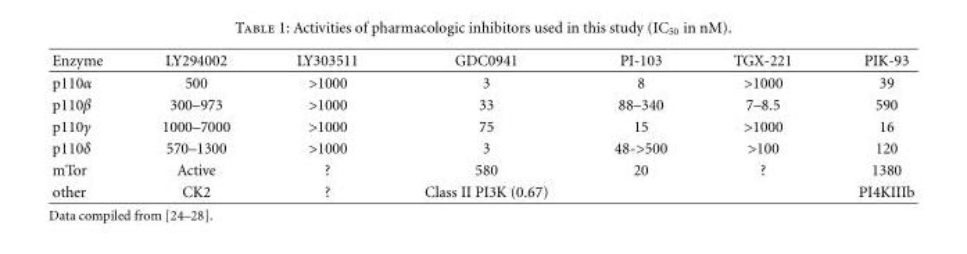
<table><thead><tr><td>Enzyme</td><td>LY294002</td><td>LY303511</td><td>GDC0941</td><td>PI-103</td><td>TGX-221</td><td>PIK-93</td></tr></thead><tbody><tr><td>p110α</td><td>500</td><td>&gt;1000</td><td>3</td><td>8</td><td>&gt;1000</td><td>39</td></tr><tr><td>p110β</td><td>300–973</td><td>&gt;1000</td><td>33</td><td>88–340</td><td>7–8.5</td><td>590</td></tr><tr><td>p110γ</td><td>1000–7000</td><td>&gt;1000</td><td>75</td><td>15</td><td>&gt;1000</td><td>16</td></tr><tr><td>p110δ</td><td>570–1300</td><td>&gt;1000</td><td>3</td><td>48-&gt;500</td><td>&gt;100</td><td>120</td></tr><tr><td>mTor</td><td>Active</td><td>?</td><td>580</td><td>20</td><td>?</td><td>1380</td></tr><tr><td>other</td><td>CK2</td><td>?</td><td>Class II PI3K (0.67)</td><td></td><td></td><td>PI4KIIIb</td></tr></tbody></table>